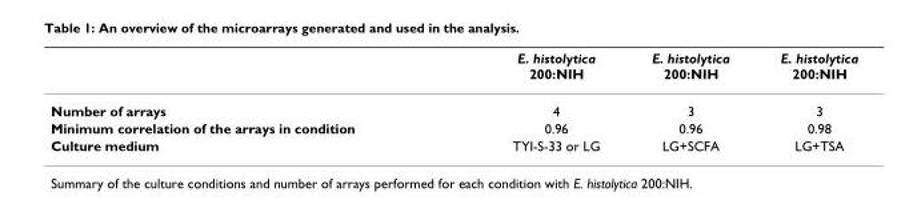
<table><thead><tr><td></td><td>E. histolytica 200:NIH</td><td>E. histolytica 200:NIH</td><td>E. histolytica 200:NIH</td></tr></thead><tbody><tr><td>Number of arrays</td><td>4</td><td>3</td><td>3</td></tr><tr><td>Minimum correlation of the arrays in condition</td><td>0.96</td><td>0.96</td><td>0.98</td></tr><tr><td>Culture medium</td><td>TYI-S-33 or LG</td><td>LG+SCFA</td><td>LG+TSA</td></tr></tbody></table>